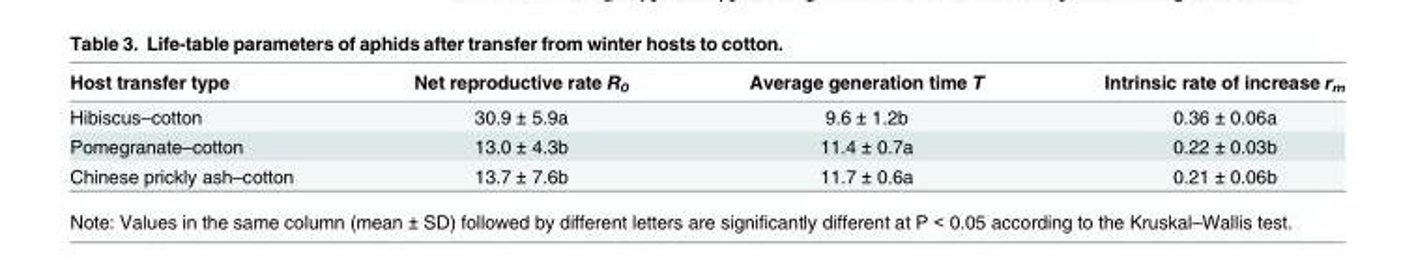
<table><thead><tr><td>Host transfer type</td><td>Net reproductive rate R<sub>0</sub></td><td>Average generation time T</td><td>Intrinsic rate of increase r<sub>m</sub></td></tr></thead><tbody><tr><td>Hibiscus–cotton</td><td>30.9 ± 5.9a</td><td>9.6 ± 1.2b</td><td>0.36 ± 0.06a</td></tr><tr><td>Pomegranate–cotton</td><td>13.0 ± 4.3b</td><td>11.4 ± 0.7a</td><td>0.22 ± 0.03b</td></tr><tr><td>Chinese prickly ash–cotton</td><td>13.7 ± 7.6b</td><td>11.7 ± 0.6a</td><td>0.21 ± 0.06b</td></tr></tbody></table>